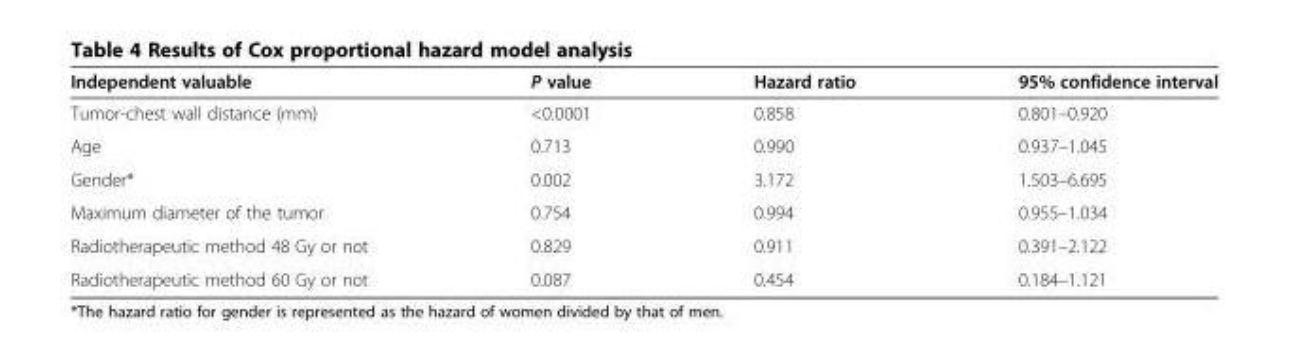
<table><thead><tr><td>Independent valuable</td><td>P value</td><td>Hazard ratio</td><td>95% confidence interval</td></tr></thead><tbody><tr><td>Tumor-chest wall distance (mm)</td><td>&lt;0.0001</td><td>0.858</td><td>0.801–0.920</td></tr><tr><td>Age</td><td>0.713</td><td>0.990</td><td>0.937–1.045</td></tr><tr><td>Gender*</td><td>0.002</td><td>3.172</td><td>1.503–6.695</td></tr><tr><td>Maximum diameter of the tumor</td><td>0.754</td><td>0.994</td><td>0.955–1.034</td></tr><tr><td>Radiotherapeutic method 48 Gy or not</td><td>0.829</td><td>0.911</td><td>0.391–2.122</td></tr><tr><td>Radiotherapeutic method 60 Gy or not</td><td>0.087</td><td>0.454</td><td>0.184–1.121</td></tr></tbody></table>